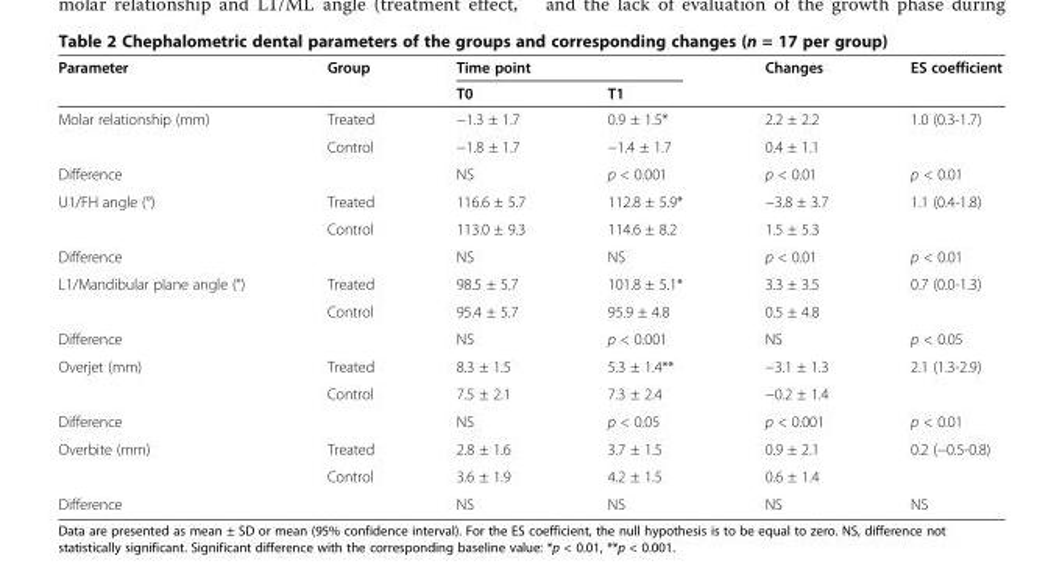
<table><thead><tr><td rowspan="2">Parameter</td><td rowspan="2">Group</td><td colspan="2">Time point</td><td rowspan="2">Changes</td><td rowspan="2">ES coefficient</td></tr><tr><td>T0</td><td>T1</td></tr></thead><tbody><tr><td rowspan="2">Molar relationship (mm)</td><td>Treated</td><td>−1.3 ± 1.7</td><td>0.9 ± 1.5*</td><td>2.2 ± 2.2</td><td rowspan="2">1.0 (0.3-1.7)</td></tr><tr><td>Control</td><td>−1.8 ± 1.7</td><td>−1.4 ± 1.7</td><td>0.4 ± 1.1</td></tr><tr><td>Difference</td><td></td><td>NS</td><td>p &lt; 0.001</td><td>p &lt; 0.01</td><td>p &lt; 0.01</td></tr><tr><td rowspan="2">U1/FH angle (°)</td><td>Treated</td><td>116.6 ± 5.7</td><td>112.8 ± 5.9*</td><td>−3.8 ± 3.7</td><td rowspan="2">1.1 (0.4-1.8)</td></tr><tr><td>Control</td><td>113.0 ± 9.3</td><td>114.6 ± 8.2</td><td>1.5 ± 5.3</td></tr><tr><td>Difference</td><td></td><td>NS</td><td>NS</td><td>p &lt; 0.01</td><td>p &lt; 0.01</td></tr><tr><td rowspan="2">L1/Mandibular plane angle (°)</td><td>Treated</td><td>98.5 ± 5.7</td><td>101.8 ± 5.1*</td><td>3.3 ± 3.5</td><td rowspan="2">0.7 (0.0-1.3)</td></tr><tr><td>Control</td><td>95.4 ± 5.7</td><td>95.9 ± 4.8</td><td>0.5 ± 4.8</td></tr><tr><td>Difference</td><td></td><td>NS</td><td>p &lt; 0.001</td><td>NS</td><td>p &lt; 0.05</td></tr><tr><td rowspan="2">Overjet (mm)</td><td>Treated</td><td>8.3 ± 1.5</td><td>5.3 ± 1.4**</td><td>−3.1 ± 1.3</td><td rowspan="2">2.1 (1.3-2.9)</td></tr><tr><td>Control</td><td>7.5 ± 2.1</td><td>7.3 ± 2.4</td><td>−0.2 ± 1.4</td></tr><tr><td>Difference</td><td></td><td>NS</td><td>p &lt; 0.05</td><td>p &lt; 0.001</td><td>p &lt; 0.01</td></tr><tr><td rowspan="2">Overbite (mm)</td><td>Treated</td><td>2.8 ± 1.6</td><td>3.7 ± 1.5</td><td>0.9 ± 2.1</td><td rowspan="2">0.2 (−0.5-0.8)</td></tr><tr><td>Control</td><td>3.6 ± 1.9</td><td>4.2 ± 1.5</td><td>0.6 ± 1.4</td></tr><tr><td>Difference</td><td></td><td>NS</td><td>NS</td><td>NS</td><td>NS</td></tr></tbody></table>